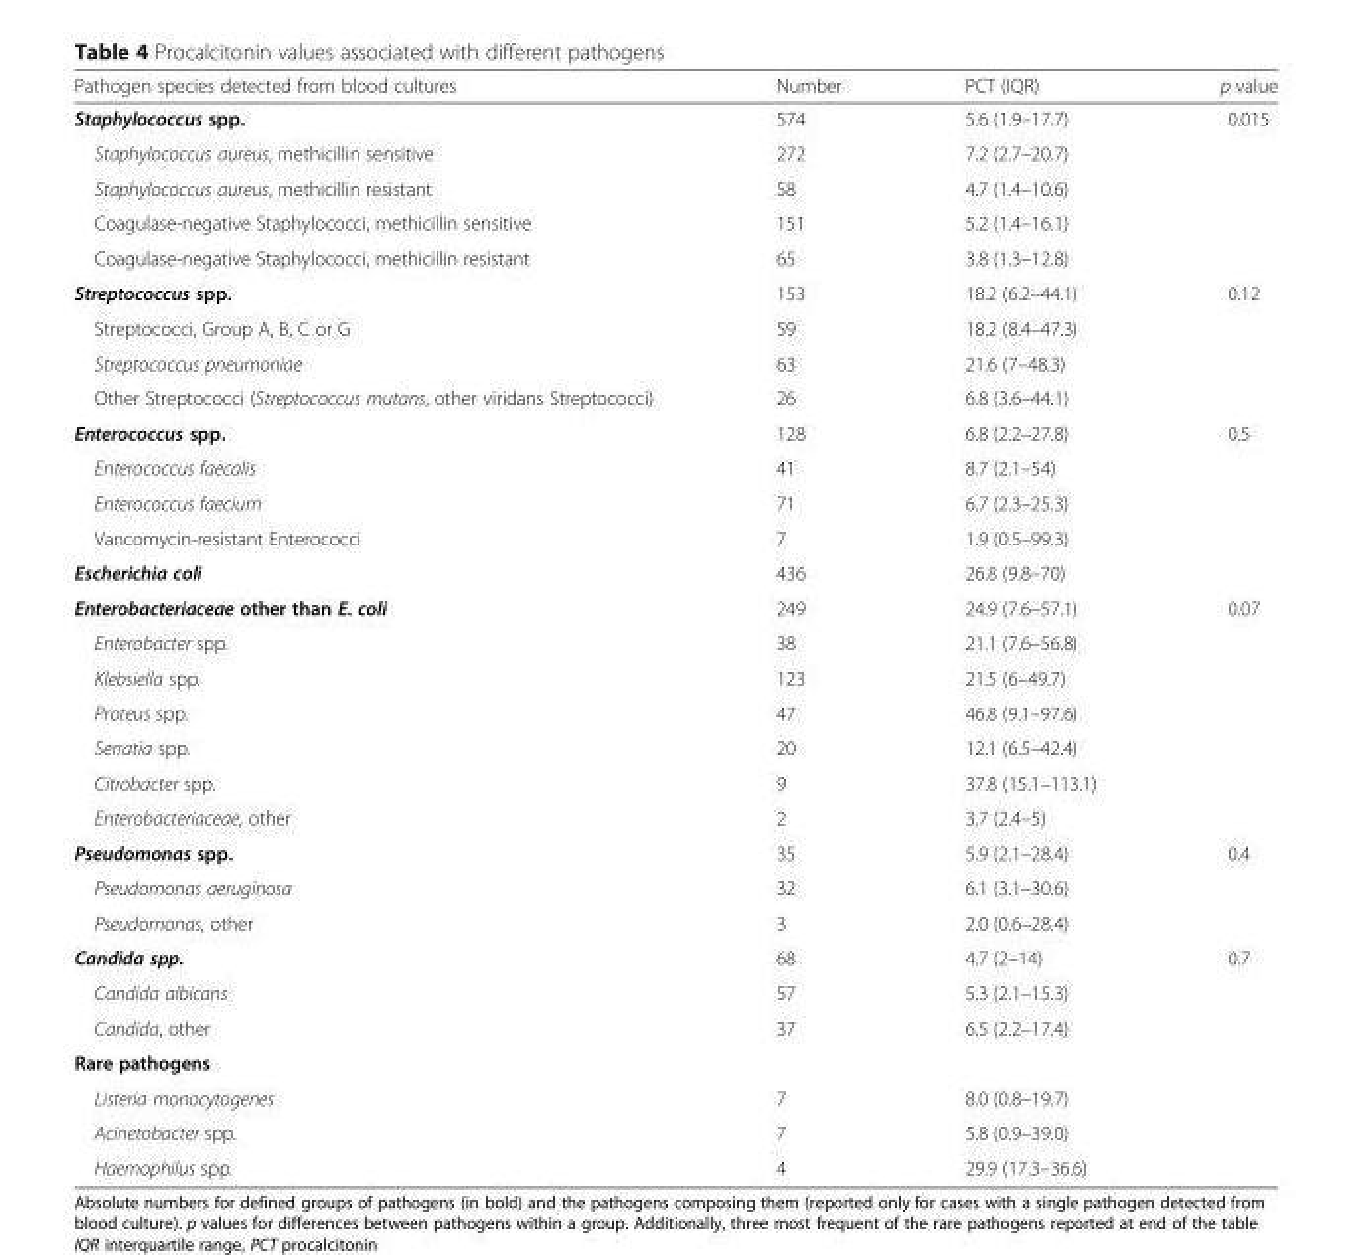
<table><thead><tr><td>Pathogen species detected from blood cultures</td><td>Number</td><td>PCT (IQR)</td><td>p value</td></tr></thead><tbody><tr><td>Staphylococcus spp.</td><td>574</td><td>5.6 (1.9–17.7)</td><td>0.015</td></tr><tr><td>Staphylococcus aureus, methicillin sensitive</td><td>272</td><td>7.2 (2.7–20.7)</td><td></td></tr><tr><td>Staphylococcus aureus, methicillin resistant</td><td>58</td><td>4.7 (1.4–10.6)</td><td></td></tr><tr><td>Coagulase-negative Staphylococci, methicillin sensitive</td><td>151</td><td>5.2 (1.4–16.1)</td><td></td></tr><tr><td>Coagulase-negative Staphylococci, methicillin resistant</td><td>65</td><td>3.8 (1.3–12.8)</td><td></td></tr><tr><td>Streptococcus spp.</td><td>153</td><td>18.2 (6.2–44.1)</td><td>0.12</td></tr><tr><td>Streptococci, Group A, B, C or G</td><td>59</td><td>18.2 (8.4–47.3)</td><td></td></tr><tr><td>Streptococcus pneumoniae</td><td>63</td><td>21.6 (7–48.3)</td><td></td></tr><tr><td>Other Streptococci (Streptococcus mutans, other viridans Streptococci)</td><td>26</td><td>6.8 (3.6–44.1)</td><td></td></tr><tr><td>Enterococcus spp.</td><td>128</td><td>6.8 (2.2–27.8)</td><td>0.5</td></tr><tr><td>Enterococcus faecalis</td><td>41</td><td>8.7 (2.1–54)</td><td></td></tr><tr><td>Enterococcus faecium</td><td>71</td><td>6.7 (2.3–25.3)</td><td></td></tr><tr><td>Vancomycin-resistant Enterococci</td><td>7</td><td>1.9 (0.5–99.3)</td><td></td></tr><tr><td>Escherichia coli</td><td>436</td><td>26.8 (9.8–70)</td><td></td></tr><tr><td>Enterobacteriaceae other than E. coli</td><td>249</td><td>24.9 (7.6–57.1)</td><td>0.07</td></tr><tr><td>Enterobacter spp.</td><td>38</td><td>21.1 (7.6–56.8)</td><td></td></tr><tr><td>Klebsiella spp.</td><td>123</td><td>21.5 (6–49.7)</td><td></td></tr><tr><td>Proteus spp.</td><td>47</td><td>46.8 (9.1–97.6)</td><td></td></tr><tr><td>Serratia spp.</td><td>20</td><td>12.1 (6.5–42.4)</td><td></td></tr><tr><td>Citrobacter spp.</td><td>9</td><td>37.8 (15.1–113.1)</td><td></td></tr><tr><td>Enterobacteriaceae, other</td><td>2</td><td>3.7 (2.4–5)</td><td></td></tr><tr><td>Pseudomonas spp.</td><td>35</td><td>5.9 (2.1–28.4)</td><td>0.4</td></tr><tr><td>Pseudomonas aeruginosa</td><td>32</td><td>6.1 (3.1–30.6)</td><td></td></tr><tr><td>Pseudomonas, other</td><td>3</td><td>2.0 (0.6–28.4)</td><td></td></tr><tr><td>Candida spp.</td><td>68</td><td>4.7 (2–14)</td><td>0.7</td></tr><tr><td>Candida albicans</td><td>57</td><td>5.3 (2.1–15.3)</td><td></td></tr><tr><td>Candida, other</td><td>37</td><td>6.5 (2.2–17.4)</td><td></td></tr><tr><td colspan="4">Rare pathogens</td></tr><tr><td>Listeria monocytogenes</td><td>7</td><td>8.0 (0.8–19.7)</td><td></td></tr><tr><td>Acinetobacter spp.</td><td>7</td><td>5.8 (0.9–39.0)</td><td></td></tr><tr><td>Haemophilus spp.</td><td>4</td><td>29.9 (17.3–36.6)</td><td></td></tr></tbody></table>